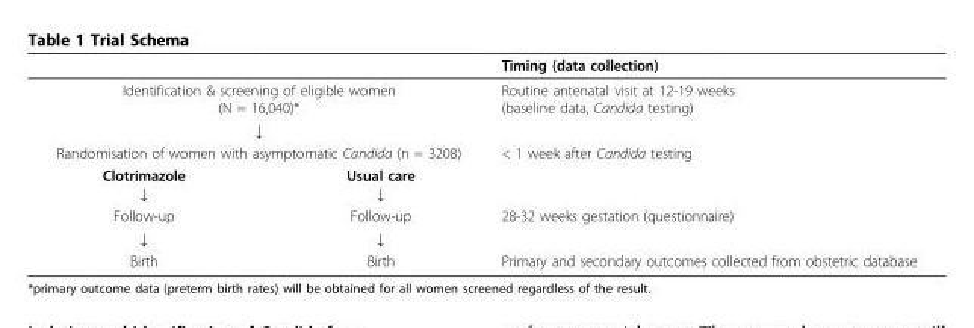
<table><thead><tr><td></td><td></td><td>Timing (data collection)</td></tr></thead><tbody><tr><td colspan="2">Identification &amp; screening of eligible women (N = 16,040)*</td><td>Routine antenatal visit at 12-19 weeks (baseline data, Candida testing)</td></tr><tr><td colspan="3">↓</td></tr><tr><td colspan="2">Randomisation of women with asymptomatic Candida (n = 3208)</td><td>&lt; 1 week after Candida testing</td></tr><tr><td>Clotrimazole ↓</td><td>Usual care ↓</td><td></td></tr><tr><td>Follow-up</td><td>Follow-up</td><td>28-32 weeks gestation (questionnaire)</td></tr><tr><td>↓</td><td>↓</td><td></td></tr><tr><td>Birth</td><td>Birth</td><td>Primary and secondary outcomes collected from obstetric database</td></tr></tbody></table>